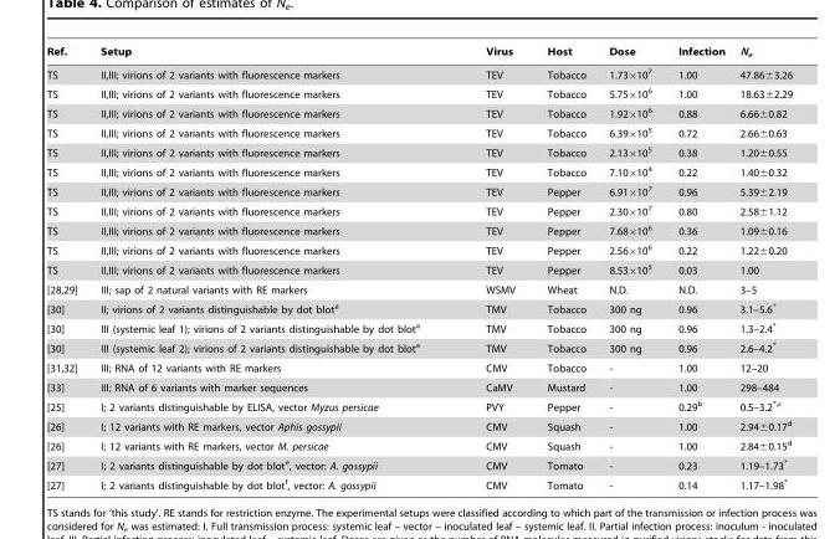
<table><thead><tr><td>Ref.</td><td>Setup</td><td>Virus</td><td>Host</td><td>Dose</td><td>Infection</td><td>N<sub>e</sub></td></tr></thead><tbody><tr><td>TS</td><td>II,III; virions of 2 variants with fluorescence markers</td><td>TEV</td><td>Tobacco</td><td>1.73×10<sup>7</sup></td><td>1.00</td><td>47.86±3.26</td></tr><tr><td>TS</td><td>II,III; virions of 2 variants with fluorescence markers</td><td>TEV</td><td>Tobacco</td><td>5.75×10<sup>6</sup></td><td>1.00</td><td>18.63±2.29</td></tr><tr><td>TS</td><td>II,III; virions of 2 variants with fluorescence markers</td><td>TEV</td><td>Tobacco</td><td>1.92×10<sup>6</sup></td><td>0.88</td><td>6.66±0.82</td></tr><tr><td>TS</td><td>II,III; virions of 2 variants with fluorescence markers</td><td>TEV</td><td>Tobacco</td><td>6.39×10<sup>5</sup></td><td>0.72</td><td>2.66±0.63</td></tr><tr><td>TS</td><td>II,III; virions of 2 variants with fluorescence markers</td><td>TEV</td><td>Tobacco</td><td>2.13×10<sup>5</sup></td><td>0.38</td><td>1.20±0.55</td></tr><tr><td>TS</td><td>II,III; virions of 2 variants with fluorescence markers</td><td>TEV</td><td>Tobacco</td><td>7.10×10<sup>4</sup></td><td>0.22</td><td>1.40±0.32</td></tr><tr><td>TS</td><td>II,III; virions of 2 variants with fluorescence markers</td><td>TEV</td><td>Pepper</td><td>6.91×10<sup>7</sup></td><td>0.96</td><td>5.39±2.19</td></tr><tr><td>TS</td><td>II,III; virions of 2 variants with fluorescence markers</td><td>TEV</td><td>Pepper</td><td>2.30×10<sup>7</sup></td><td>0.80</td><td>2.58±1.12</td></tr><tr><td>TS</td><td>II,III; virions of 2 variants with fluorescence markers</td><td>TEV</td><td>Pepper</td><td>7.68×10<sup>6</sup></td><td>0.36</td><td>1.09±0.16</td></tr><tr><td>TS</td><td>II,III; virions of 2 variants with fluorescence markers</td><td>TEV</td><td>Pepper</td><td>2.56×10<sup>6</sup></td><td>0.22</td><td>1.22±0.20</td></tr><tr><td>TS</td><td>II,III; virions of 2 variants with fluorescence markers</td><td>TEV</td><td>Pepper</td><td>8.53×10<sup>5</sup></td><td>0.03</td><td>1.00</td></tr><tr><td>[28,29]</td><td>III; sap of 2 natural variants with RE markers</td><td>WSMV</td><td>Wheat</td><td>N.D.</td><td>N.D.</td><td>3–5</td></tr><tr><td>[30]</td><td>II; virions of 2 variants distinguishable by dot blot<sup>a</sup></td><td>TMV</td><td>Tobacco</td><td>300 ng</td><td>0.96</td><td>3.1–5.6*</td></tr><tr><td>[30]</td><td>III (systemic leaf 1); virions of 2 variants distinguishable by dot blot<sup>a</sup></td><td>TMV</td><td>Tobacco</td><td>300 ng</td><td>0.96</td><td>1.3–2.4*</td></tr><tr><td>[30]</td><td>III (systemic leaf 2); virions of 2 variants distinguishable by dot blot<sup>a</sup></td><td>TMV</td><td>Tobacco</td><td>300 ng</td><td>0.96</td><td>2.6–4.2*</td></tr><tr><td>[31,32]</td><td>III; RNA of 12 variants with RE markers</td><td>CMV</td><td>Tobacco</td><td>-</td><td>1.00</td><td>12–20</td></tr><tr><td>[33]</td><td>III; RNA of 6 variants with marker sequences</td><td>CaMV</td><td>Mustard</td><td>-</td><td>1.00</td><td>298–484</td></tr><tr><td>[25]</td><td>I; 2 variants distinguishable by ELISA, vector Myzus persicae</td><td>PVY</td><td>Pepper</td><td>-</td><td>0.29<sup>b</sup></td><td>0.5–3.2<sup>*,</sup>c</td></tr><tr><td>[26]</td><td>I; 12 variants with RE markers, vector Aphis gossypii</td><td>CMV</td><td>Squash</td><td>-</td><td>1.00</td><td>2.94±0.17<sup>d</sup></td></tr><tr><td>[26]</td><td>I; 12 variants with RE markers, vector M. persicae</td><td>CMV</td><td>Squash</td><td>-</td><td>1.00</td><td>2.84±0.15<sup>d</sup></td></tr><tr><td>[27]</td><td>I; 2 variants distinguishable by dot blot<sup>e</sup>, vector: A. gossypii</td><td>CMV</td><td>Tomato</td><td>-</td><td>0.23</td><td>1.19–1.73*</td></tr><tr><td>[27]</td><td>I; 2 variants distinguishable by dot blot<sup>f</sup>, vector: A. gossypii</td><td>CMV</td><td>Tomato</td><td>-</td><td>0.14</td><td>1.17–1.98*</td></tr></tbody></table>